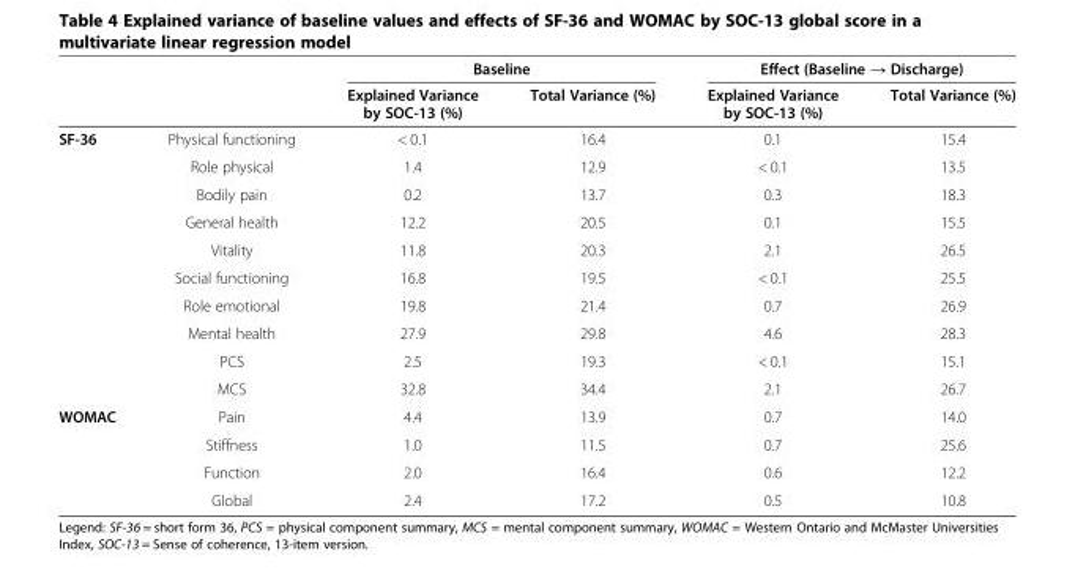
<table><thead><tr><td rowspan="2"></td><td rowspan="2"></td><td colspan="2">Baseline</td><td colspan="2">Effect (Baseline → Discharge)</td></tr><tr><td>Explained Variance by SOC-13 (%)</td><td>Total Variance (%)</td><td>Explained Variance by SOC-13 (%)</td><td>Total Variance (%)</td></tr></thead><tbody><tr><td rowspan="10">SF-36</td><td>Physical functioning</td><td>&lt; 0.1</td><td>16.4</td><td>0.1</td><td>15.4</td></tr><tr><td>Role physical</td><td>1.4</td><td>12.9</td><td>&lt; 0.1</td><td>13.5</td></tr><tr><td>Bodily pain</td><td>0.2</td><td>13.7</td><td>0.3</td><td>18.3</td></tr><tr><td>General health</td><td>12.2</td><td>20.5</td><td>0.1</td><td>15.5</td></tr><tr><td>Vitality</td><td>11.8</td><td>20.3</td><td>2.1</td><td>26.5</td></tr><tr><td>Social functioning</td><td>16.8</td><td>19.5</td><td>&lt; 0.1</td><td>25.5</td></tr><tr><td>Role emotional</td><td>19.8</td><td>21.4</td><td>0.7</td><td>26.9</td></tr><tr><td>Mental health</td><td>27.9</td><td>29.8</td><td>4.6</td><td>28.3</td></tr><tr><td>PCS</td><td>2.5</td><td>19.3</td><td>&lt; 0.1</td><td>15.1</td></tr><tr><td>MCS</td><td>32.8</td><td>34.4</td><td>2.1</td><td>26.7</td></tr><tr><td rowspan="4">WOMAC</td><td>Pain</td><td>4.4</td><td>13.9</td><td>0.7</td><td>14.0</td></tr><tr><td>Stiffness</td><td>1.0</td><td>11.5</td><td>0.7</td><td>25.6</td></tr><tr><td>Function</td><td>2.0</td><td>16.4</td><td>0.6</td><td>12.2</td></tr><tr><td>Global</td><td>2.4</td><td>17.2</td><td>0.5</td><td>10.8</td></tr></tbody></table>